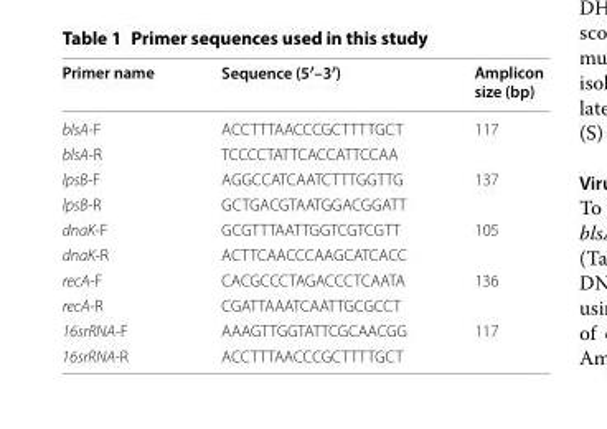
<table><thead><tr><td>Primer name</td><td>Sequence (5′–3′)</td><td>Amplicon size (bp)</td></tr></thead><tbody><tr><td>blsA-F</td><td>ACC TTT AAC CCG CTT TTG CT</td><td rowspan="2">117</td></tr><tr><td>blsA-R</td><td>TCC CCT ATT CAC CAT TCC AA</td></tr><tr><td>lpsB-F</td><td>AGG CCA TCA ATC TTT GGT TG</td><td rowspan="2">137</td></tr><tr><td>lpsB-R</td><td>GCT GAC GTA ATG GAC GGA TT</td></tr><tr><td>dnaK-F</td><td>GCG TTT AAT TGG TCG TCG TT</td><td rowspan="2">105</td></tr><tr><td>dnaK-R</td><td>ACT TCA ACC CAA GCA TCA CC</td></tr><tr><td>recA-F</td><td>CAC GCC CTA GAC CCT CAA TA</td><td rowspan="2">136</td></tr><tr><td>recA-R</td><td>CGA TTA AAT CAA TTG CGC CT</td></tr><tr><td>16srRNA-F</td><td>AAA GTT GGT ATT CGC AAC GG</td><td rowspan="2">117</td></tr><tr><td>16srRNA-R</td><td>ACC TTT AAC CCG CTT TTG CT</td></tr></tbody></table>